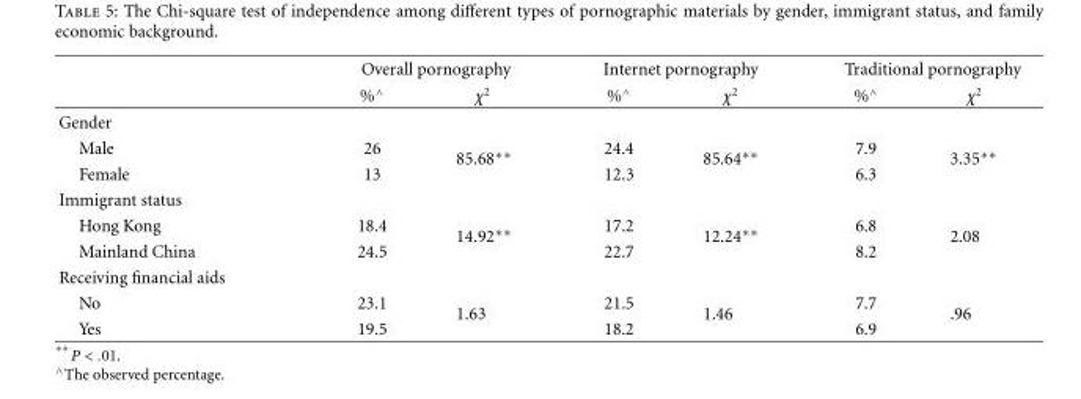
<table><thead><tr><td rowspan="2"></td><td colspan="2">Overall pornography</td><td colspan="2">Internet pornography</td><td colspan="2">Traditional pornography</td></tr><tr><td>%<sup>∧</sup></td><td>χ<sup>2</sup></td><td>%<sup>∧</sup></td><td>χ<sup>2</sup></td><td>%<sup>∧</sup></td><td>χ<sup>2</sup></td></tr></thead><tbody><tr><td colspan="7">Gender</td></tr><tr><td>Male</td><td>26</td><td rowspan="2">85.68∗∗</td><td>24.4</td><td rowspan="2">85.64∗∗</td><td>7.9</td><td rowspan="2">3.35∗∗</td></tr><tr><td>Female</td><td>13</td><td>12.3</td><td>6.3</td></tr><tr><td colspan="7">Immigrant status</td></tr><tr><td>Hong Kong</td><td>18.4</td><td rowspan="2">14.92∗∗</td><td>17.2</td><td rowspan="2">12.24∗∗</td><td>6.8</td><td rowspan="2">2.08</td></tr><tr><td>Mainland China</td><td>24.5</td><td>22.7</td><td>8.2</td></tr><tr><td colspan="7">Receiving financial aids</td></tr><tr><td>No</td><td>23.1</td><td rowspan="2">1.63</td><td>21.5</td><td rowspan="2">1.46</td><td>7.7</td><td rowspan="2">.96</td></tr><tr><td>Yes</td><td>19.5</td><td>18.2</td><td>6.9</td></tr></tbody></table>